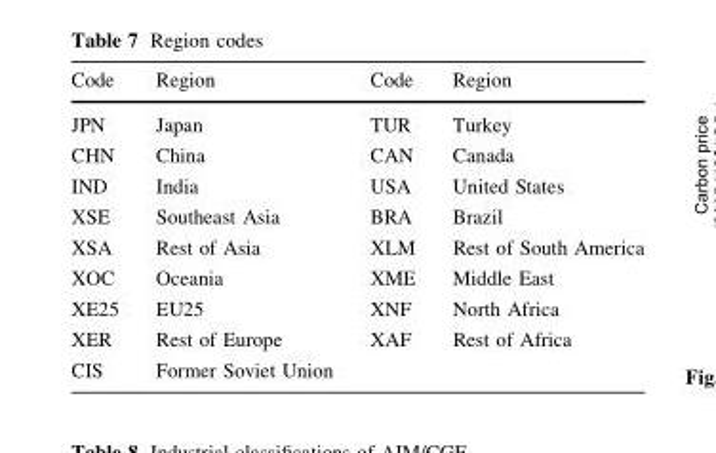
<table><thead><tr><td>Code</td><td>Region</td><td>Code</td><td>Region</td></tr></thead><tbody><tr><td>JPN</td><td>Japan</td><td>TUR</td><td>Turkey</td></tr><tr><td>CHN</td><td>China</td><td>CAN</td><td>Canada</td></tr><tr><td>IND</td><td>India</td><td>USA</td><td>United States</td></tr><tr><td>XSE</td><td>Southeast Asia</td><td>BRA</td><td>Brazil</td></tr><tr><td>XSA</td><td>Rest of Asia</td><td>XLM</td><td>Rest of South America</td></tr><tr><td>XOC</td><td>Oceania</td><td>XME</td><td>Middle East</td></tr><tr><td>XE25</td><td>EU25</td><td>XNF</td><td>North Africa</td></tr><tr><td>XER</td><td>Rest of Europe</td><td>XAF</td><td>Rest of Africa</td></tr><tr><td>CIS</td><td>Former Soviet Union</td><td></td><td></td></tr></tbody></table>